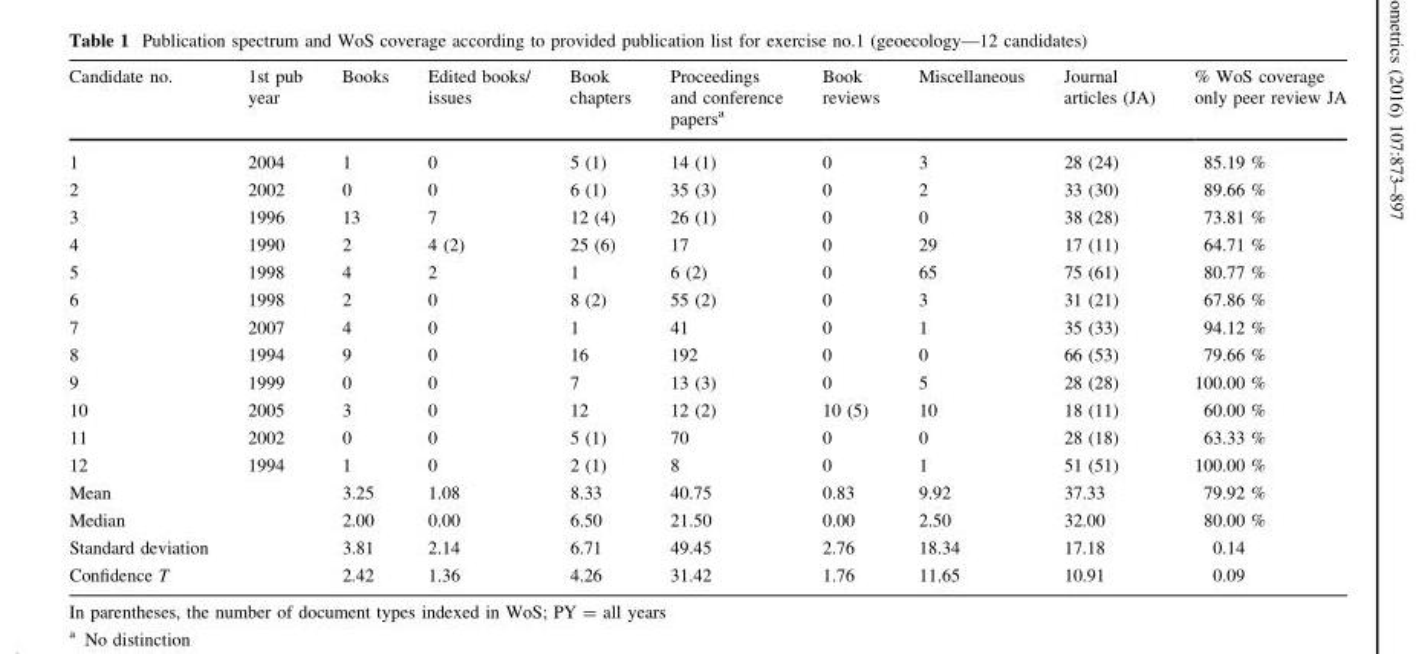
<table><thead><tr><td>Candidate no.</td><td>1st pub year</td><td>Books</td><td>Edited books/ issues</td><td>Book chapters</td><td>Proceedings and conference papers<sup>a</sup></td><td>Book reviews</td><td>Miscellaneous</td><td>Journal articles (JA)</td><td>% WoS coverage only peer review JA</td></tr></thead><tbody><tr><td>1</td><td>2004</td><td>1</td><td>0</td><td>5 (1)</td><td>14 (1)</td><td>0</td><td>3</td><td>28 (24)</td><td>85.19 %</td></tr><tr><td>2</td><td>2002</td><td>0</td><td>0</td><td>6 (1)</td><td>35 (3)</td><td>0</td><td>2</td><td>33 (30)</td><td>89.66 %</td></tr><tr><td>3</td><td>1996</td><td>13</td><td>7</td><td>12 (4)</td><td>26 (1)</td><td>0</td><td>0</td><td>38 (28)</td><td>73.81 %</td></tr><tr><td>4</td><td>1990</td><td>2</td><td>4 (2)</td><td>25 (6)</td><td>17</td><td>0</td><td>29</td><td>17 (11)</td><td>64.71 %</td></tr><tr><td>5</td><td>1998</td><td>4</td><td>2</td><td>1</td><td>6 (2)</td><td>0</td><td>65</td><td>75 (61)</td><td>80.77 %</td></tr><tr><td>6</td><td>1998</td><td>2</td><td>0</td><td>8 (2)</td><td>55 (2)</td><td>0</td><td>3</td><td>31 (21)</td><td>67.86 %</td></tr><tr><td>7</td><td>2007</td><td>4</td><td>0</td><td>1</td><td>41</td><td>0</td><td>1</td><td>35 (33)</td><td>94.12 %</td></tr><tr><td>8</td><td>1994</td><td>9</td><td>0</td><td>16</td><td>192</td><td>0</td><td>0</td><td>66 (53)</td><td>79.66 %</td></tr><tr><td>9</td><td>1999</td><td>0</td><td>0</td><td>7</td><td>13 (3)</td><td>0</td><td>5</td><td>28 (28)</td><td>100.00 %</td></tr><tr><td>10</td><td>2005</td><td>3</td><td>0</td><td>12</td><td>12 (2)</td><td>10 (5)</td><td>10</td><td>18 (11)</td><td>60.00 %</td></tr><tr><td>11</td><td>2002</td><td>0</td><td>0</td><td>5 (1)</td><td>70</td><td>0</td><td>0</td><td>28 (18)</td><td>63.33 %</td></tr><tr><td>12</td><td>1994</td><td>1</td><td>0</td><td>2 (1)</td><td>8</td><td>0</td><td>1</td><td>51 (51)</td><td>100.00 %</td></tr><tr><td>Mean</td><td></td><td>3.25</td><td>1.08</td><td>8.33</td><td>40.75</td><td>0.83</td><td>9.92</td><td>37.33</td><td>79.92 %</td></tr><tr><td>Median</td><td></td><td>2.00</td><td>0.00</td><td>6.50</td><td>21.50</td><td>0.00</td><td>2.50</td><td>32.00</td><td>80.00 %</td></tr><tr><td>Standard deviation</td><td></td><td>3.81</td><td>2.14</td><td>6.71</td><td>49.45</td><td>2.76</td><td>18.34</td><td>17.18</td><td>0.14</td></tr><tr><td>Confidence T</td><td></td><td>2.42</td><td>1.36</td><td>4.26</td><td>31.42</td><td>1.76</td><td>11.65</td><td>10.91</td><td>0.09</td></tr></tbody></table>